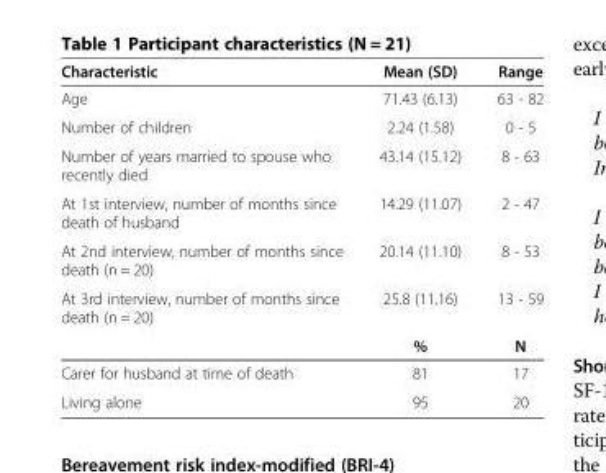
<table><thead><tr><td>Characteristic</td><td>Mean (SD)</td><td>Range</td></tr></thead><tbody><tr><td>Age</td><td>71.43 (6.13)</td><td>63 - 82</td></tr><tr><td>Number of children</td><td>2.24 (1.58)</td><td>0 - 5</td></tr><tr><td>Number of years married to spouse who recently died</td><td>43.14 (15.12)</td><td>8 - 63</td></tr><tr><td>At 1st interview, number of months since death of husband</td><td>14.29 (11.07)</td><td>2 - 47</td></tr><tr><td>At 2nd interview, number of months since death (n = 20)</td><td>20.14 (11.10)</td><td>8 - 53</td></tr><tr><td rowspan="2">At 3rd interview, number of months since death (n = 20)</td><td>25.8 (11.16)</td><td>13 - 59</td></tr><tr><td>%</td><td>N</td></tr><tr><td>Carer for husband at time of death</td><td>81</td><td>17</td></tr><tr><td>Living alone</td><td>95</td><td>20</td></tr></tbody></table>